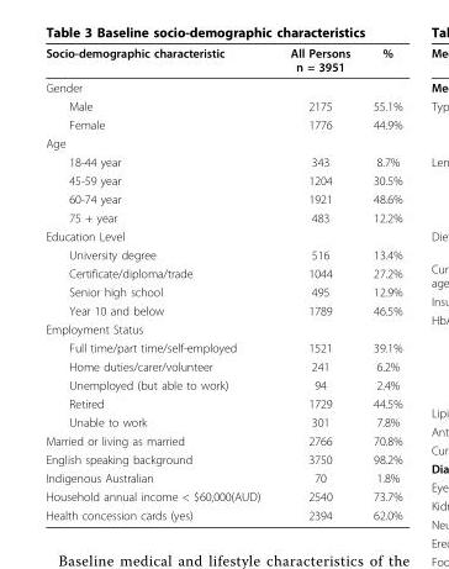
<table><thead><tr><td>Socio-demographic characteristic</td><td>All Persons n = 3951</td><td>%</td></tr></thead><tbody><tr><td colspan="3">Gender</td></tr><tr><td>Male</td><td>2175</td><td>55.1%</td></tr><tr><td>Female</td><td>1776</td><td>44.9%</td></tr><tr><td colspan="3">Age</td></tr><tr><td>18-44 year</td><td>343</td><td>8.7%</td></tr><tr><td>45-59 year</td><td>1204</td><td>30.5%</td></tr><tr><td>60-74 year</td><td>1921</td><td>48.6%</td></tr><tr><td>75 + year</td><td>483</td><td>12.2%</td></tr><tr><td colspan="3">Education Level</td></tr><tr><td>University degree</td><td>516</td><td>13.4%</td></tr><tr><td>Certificate/diploma/trade</td><td>1044</td><td>27.2%</td></tr><tr><td>Senior high school</td><td>495</td><td>12.9%</td></tr><tr><td>Year 10 and below</td><td>1789</td><td>46.5%</td></tr><tr><td colspan="3">Employment Status</td></tr><tr><td>Full time/part time/self-employed</td><td>1521</td><td>39.1%</td></tr><tr><td>Home duties/carer/volunteer</td><td>241</td><td>6.2%</td></tr><tr><td>Unemployed (but able to work)</td><td>94</td><td>2.4%</td></tr><tr><td>Retired</td><td>1729</td><td>44.5%</td></tr><tr><td>Unable to work</td><td>301</td><td>7.8%</td></tr><tr><td>Married or living as married</td><td>2766</td><td>70.8%</td></tr><tr><td>English speaking background</td><td>3750</td><td>98.2%</td></tr><tr><td>Indigenous Australian</td><td>70</td><td>1.8%</td></tr><tr><td>Household annual income &lt; $60,000(AUD)</td><td>2540</td><td>73.7%</td></tr><tr><td>Health concession cards (yes)</td><td>2394</td><td>62.0%</td></tr></tbody></table>